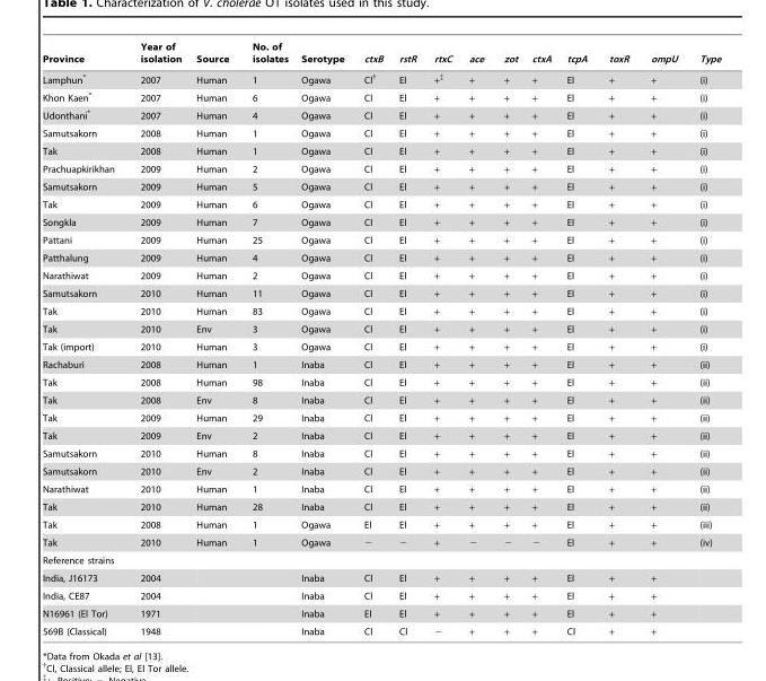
<table><thead><tr><td>Province</td><td>Year of isolation</td><td>Source</td><td>No. of isolates</td><td>Serotype</td><td>ctxB</td><td>rstR</td><td>rtxC</td><td>ace</td><td>zot</td><td>ctxA</td><td>tcpA</td><td>toxR</td><td>ompU</td><td>Type</td></tr></thead><tbody><tr><td>Lamphun*</td><td>2007</td><td>Human</td><td>1</td><td>Ogawa</td><td>Cl†</td><td>El</td><td>+‡</td><td>+</td><td>+</td><td>+</td><td>El</td><td>+</td><td>+</td><td>(i)</td></tr><tr><td>Khon Kaen*</td><td>2007</td><td>Human</td><td>6</td><td>Ogawa</td><td>Cl</td><td>El</td><td>+</td><td>+</td><td>+</td><td>+</td><td>El</td><td>+</td><td>+</td><td>(i)</td></tr><tr><td>Udonthani*</td><td>2007</td><td>Human</td><td>4</td><td>Ogawa</td><td>Cl</td><td>El</td><td>+</td><td>+</td><td>+</td><td>+</td><td>El</td><td>+</td><td>+</td><td>(i)</td></tr><tr><td>Samutsakorn</td><td>2008</td><td>Human</td><td>1</td><td>Ogawa</td><td>Cl</td><td>El</td><td>+</td><td>+</td><td>+</td><td>+</td><td>El</td><td>+</td><td>+</td><td>(i)</td></tr><tr><td>Tak</td><td>2008</td><td>Human</td><td>1</td><td>Ogawa</td><td>Cl</td><td>El</td><td>+</td><td>+</td><td>+</td><td>+</td><td>El</td><td>+</td><td>+</td><td>(i)</td></tr><tr><td>Prachuapkirikhan</td><td>2009</td><td>Human</td><td>2</td><td>Ogawa</td><td>Cl</td><td>El</td><td>+</td><td>+</td><td>+</td><td>+</td><td>El</td><td>+</td><td>+</td><td>(i)</td></tr><tr><td>Samutsakorn</td><td>2009</td><td>Human</td><td>5</td><td>Ogawa</td><td>Cl</td><td>El</td><td>+</td><td>+</td><td>+</td><td>+</td><td>El</td><td>+</td><td>+</td><td>(i)</td></tr><tr><td>Tak</td><td>2009</td><td>Human</td><td>6</td><td>Ogawa</td><td>Cl</td><td>El</td><td>+</td><td>+</td><td>+</td><td>+</td><td>El</td><td>+</td><td>+</td><td>(i)</td></tr><tr><td>Songkla</td><td>2009</td><td>Human</td><td>7</td><td>Ogawa</td><td>Cl</td><td>El</td><td>+</td><td>+</td><td>+</td><td>+</td><td>El</td><td>+</td><td>+</td><td>(i)</td></tr><tr><td>Pattani</td><td>2009</td><td>Human</td><td>25</td><td>Ogawa</td><td>Cl</td><td>El</td><td>+</td><td>+</td><td>+</td><td>+</td><td>El</td><td>+</td><td>+</td><td>(i)</td></tr><tr><td>Patthalung</td><td>2009</td><td>Human</td><td>4</td><td>Ogawa</td><td>Cl</td><td>El</td><td>+</td><td>+</td><td>+</td><td>+</td><td>El</td><td>+</td><td>+</td><td>(i)</td></tr><tr><td>Narathiwat</td><td>2009</td><td>Human</td><td>2</td><td>Ogawa</td><td>Cl</td><td>El</td><td>+</td><td>+</td><td>+</td><td>+</td><td>El</td><td>+</td><td>+</td><td>(i)</td></tr><tr><td>Samutsakorn</td><td>2010</td><td>Human</td><td>11</td><td>Ogawa</td><td>Cl</td><td>El</td><td>+</td><td>+</td><td>+</td><td>+</td><td>El</td><td>+</td><td>+</td><td>(i)</td></tr><tr><td>Tak</td><td>2010</td><td>Human</td><td>83</td><td>Ogawa</td><td>Cl</td><td>El</td><td>+</td><td>+</td><td>+</td><td>+</td><td>El</td><td>+</td><td>+</td><td>(i)</td></tr><tr><td>Tak</td><td>2010</td><td>Env</td><td>3</td><td>Ogawa</td><td>Cl</td><td>El</td><td>+</td><td>+</td><td>+</td><td>+</td><td>El</td><td>+</td><td>+</td><td>(i)</td></tr><tr><td>Tak (import)</td><td>2010</td><td>Human</td><td>3</td><td>Ogawa</td><td>Cl</td><td>El</td><td>+</td><td>+</td><td>+</td><td>+</td><td>El</td><td>+</td><td>+</td><td>(i)</td></tr><tr><td>Rachaburi</td><td>2008</td><td>Human</td><td>1</td><td>Inaba</td><td>Cl</td><td>El</td><td>+</td><td>+</td><td>+</td><td>+</td><td>El</td><td>+</td><td>+</td><td>(ii)</td></tr><tr><td>Tak</td><td>2008</td><td>Human</td><td>98</td><td>Inaba</td><td>Cl</td><td>El</td><td>+</td><td>+</td><td>+</td><td>+</td><td>El</td><td>+</td><td>+</td><td>(ii)</td></tr><tr><td>Tak</td><td>2008</td><td>Env</td><td>8</td><td>Inaba</td><td>Cl</td><td>El</td><td>+</td><td>+</td><td>+</td><td>+</td><td>El</td><td>+</td><td>+</td><td>(ii)</td></tr><tr><td>Tak</td><td>2009</td><td>Human</td><td>29</td><td>Inaba</td><td>Cl</td><td>El</td><td>+</td><td>+</td><td>+</td><td>+</td><td>El</td><td>+</td><td>+</td><td>(ii)</td></tr><tr><td>Tak</td><td>2009</td><td>Env</td><td>2</td><td>Inaba</td><td>Cl</td><td>El</td><td>+</td><td>+</td><td>+</td><td>+</td><td>El</td><td>+</td><td>+</td><td>(ii)</td></tr><tr><td>Samutsakorn</td><td>2010</td><td>Human</td><td>8</td><td>Inaba</td><td>Cl</td><td>El</td><td>+</td><td>+</td><td>+</td><td>+</td><td>El</td><td>+</td><td>+</td><td>(ii)</td></tr><tr><td>Samutsakorn</td><td>2010</td><td>Env</td><td>2</td><td>Inaba</td><td>Cl</td><td>El</td><td>+</td><td>+</td><td>+</td><td>+</td><td>El</td><td>+</td><td>+</td><td>(ii)</td></tr><tr><td>Narathiwat</td><td>2010</td><td>Human</td><td>1</td><td>Inaba</td><td>Cl</td><td>El</td><td>+</td><td>+</td><td>+</td><td>+</td><td>El</td><td>+</td><td>+</td><td>(ii)</td></tr><tr><td>Tak</td><td>2010</td><td>Human</td><td>28</td><td>Inaba</td><td>Cl</td><td>El</td><td>+</td><td>+</td><td>+</td><td>+</td><td>El</td><td>+</td><td>+</td><td>(ii)</td></tr><tr><td>Tak</td><td>2008</td><td>Human</td><td>1</td><td>Ogawa</td><td>El</td><td>El</td><td>+</td><td>+</td><td>+</td><td>+</td><td>El</td><td>+</td><td>+</td><td>(iii)</td></tr><tr><td>Tak</td><td>2010</td><td>Human</td><td>1</td><td>Ogawa</td><td>−</td><td>−</td><td>+</td><td>−</td><td>−</td><td>−</td><td>El</td><td>+</td><td>+</td><td>(iv)</td></tr><tr><td colspan="15">Reference strains</td></tr><tr><td>India, J16173</td><td>2004</td><td></td><td></td><td>Inaba</td><td>Cl</td><td>El</td><td>+</td><td>+</td><td>+</td><td>+</td><td>El</td><td>+</td><td>+</td><td></td></tr><tr><td>India, CE87</td><td>2004</td><td></td><td></td><td>Inaba</td><td>Cl</td><td>El</td><td>+</td><td>+</td><td>+</td><td>+</td><td>El</td><td>+</td><td>+</td><td></td></tr><tr><td>N16961 (El Tor)</td><td>1971</td><td></td><td></td><td>Inaba</td><td>El</td><td>El</td><td>+</td><td>+</td><td>+</td><td>+</td><td>El</td><td>+</td><td>+</td><td></td></tr><tr><td>569B (Classical)</td><td>1948</td><td></td><td></td><td>Inaba</td><td>Cl</td><td>Cl</td><td>−</td><td>+</td><td>+</td><td>+</td><td>Cl</td><td>+</td><td>+</td><td></td></tr></tbody></table>